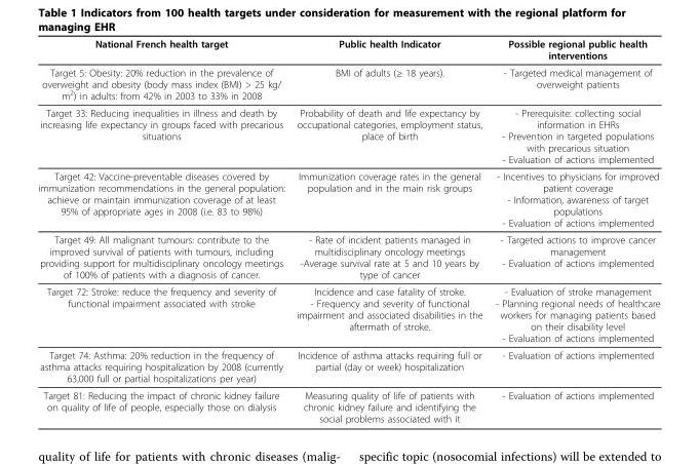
<table><thead><tr><td>National French health target</td><td>Public health Indicator</td><td>Possible regional public health interventions</td></tr></thead><tbody><tr><td>Target 5: Obesity: 20% reduction in the prevalence of overweight and obesity (body mass index (BMI) &gt; 25 kg/ m<sup>2</sup>) in adults: from 42% in 2003 to 33% in 2008</td><td>BMI of adults (≥ 18 years).</td><td>- Targeted medical management of overweight patients</td></tr><tr><td>Target 33: Reducing inequalities in illness and death by increasing life expectancy in groups faced with precarious situations</td><td>Probability of death and life expectancy by occupational categories, employment status, place of birth</td><td>- Prerequisite: collecting social information in EHRs - Prevention in targeted populations with precarious situation - Evaluation of actions implemented</td></tr><tr><td>Target 42: Vaccine-preventable diseases covered by immunization recommendations in the general population: achieve or maintain immunization coverage of at least 95% of appropriate ages in 2008 (i.e. 83 to 98%)</td><td>Immunization coverage rates in the general population and in the main risk groups</td><td>- Incentives to physicians for improved patient coverage - Information, awareness of target populations - Evaluation of actions implemented</td></tr><tr><td>Target 49: All malignant tumours: contribute to the improved survival of patients with tumours, including providing support for multidisciplinary oncology meetings of 100% of patients with a diagnosis of cancer.</td><td>- Rate of incident patients managed in multidisciplinary oncology meetings -Average survival rate at 5 and 10 years by type of cancer</td><td>- Targeted actions to improve cancer management - Evaluation of actions implemented</td></tr><tr><td>Target 72: Stroke: reduce the frequency and severity of functional impairment associated with stroke</td><td>Incidence and case fatality of stroke. - Frequency and severity of functional impairment and associated disabilities in the aftermath of stroke.</td><td>- Evaluation of stroke management - Planning regional needs of healthcare workers for managing patients based on their disability level - Evaluation of actions implemented</td></tr><tr><td>Target 74: Asthma: 20% reduction in the frequency of asthma attacks requiring hospitalization by 2008 (currently 63,000 full or partial hospitalizations per year)</td><td>Incidence of asthma attacks requiring full or partial (day or week) hospitalization</td><td>- Evaluation of actions implemented</td></tr><tr><td>Target 81: Reducing the impact of chronic kidney failure on quality of life of people, especially those on dialysis</td><td>Measuring quality of life of patients with chronic kidney failure and identifying the social problems associated with it</td><td>- Evaluation of actions implemented</td></tr></tbody></table>